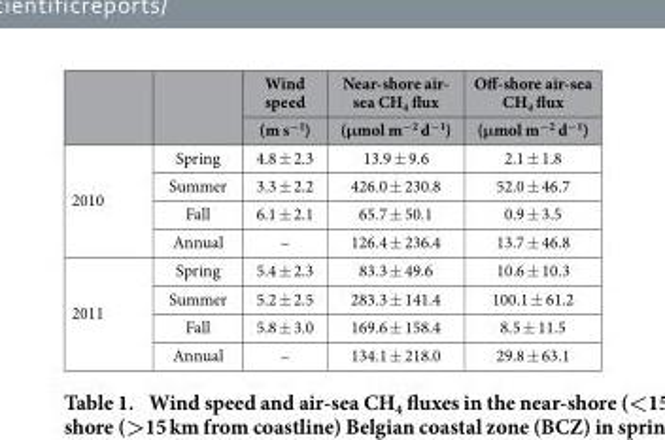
<table><thead><tr><td rowspan="2"></td><td rowspan="2"></td><td rowspan="2">Wind speed (m s<sup>−1</sup>)</td><td rowspan="2">Near-shore air- sea CH<sub>4</sub> flux (μmol m<sup>−2</sup> d<sup>−1</sup>)</td><td rowspan="2">Off-shore air-sea CH<sub>4</sub> flux (μmol m<sup>−2</sup> d<sup>−1</sup>)</td></tr><tr></tr></thead><tbody><tr><td rowspan="4">2010</td><td>Spring</td><td>4.8 ± 2.3</td><td>13.9 ± 9.6</td><td>2.1 ± 1.8</td></tr><tr><td>Summer</td><td>3.3 ± 2.2</td><td>426.0 ± 230.8</td><td>52.0 ± 46.7</td></tr><tr><td>Fall</td><td>6.1 ± 2.1</td><td>65.7 ± 50.1</td><td>0.9 ± 3.5</td></tr><tr><td>Annual</td><td>–</td><td>126.4 ± 236.4</td><td>13.7 ± 46.8</td></tr><tr><td rowspan="4">2011</td><td>Spring</td><td>5.4 ± 2.3</td><td>83.3 ± 49.6</td><td>10.6 ± 10.3</td></tr><tr><td>Summer</td><td>5.2 ± 2.5</td><td>283.3 ± 141.4</td><td>100.1 ± 61.2</td></tr><tr><td>Fall</td><td>5.8 ± 3.0</td><td>169.6 ± 158.4</td><td>8.5 ± 11.5</td></tr><tr><td>Annual</td><td>–</td><td>134.1 ± 218.0</td><td>29.8 ± 63.1</td></tr></tbody></table>